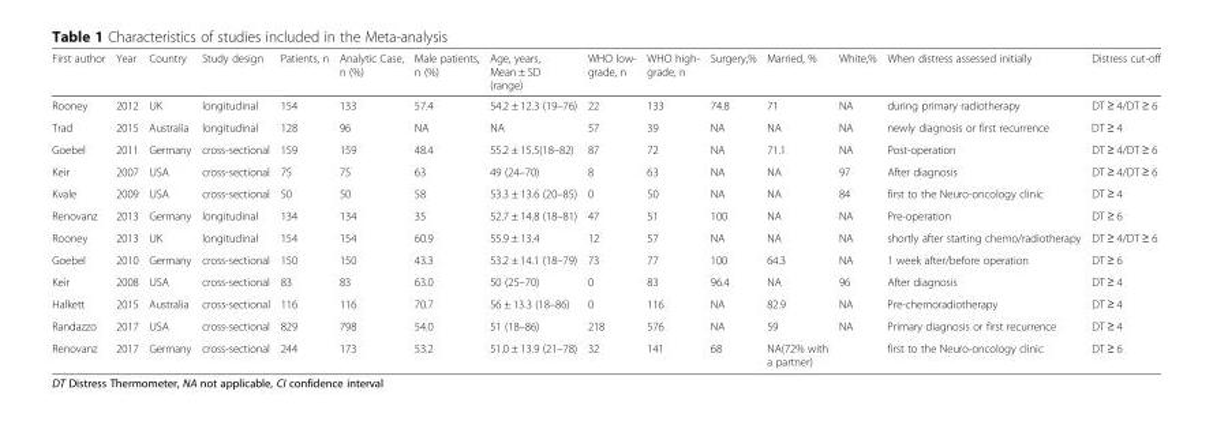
<table><thead><tr><td>First author</td><td>Year</td><td>Country</td><td>Study design</td><td>Patients, n</td><td>Analytic Case, n (%)</td><td>Male patients, n (%)</td><td>Age, years, Mean ± SD (range)</td><td>WHO low- grade, n</td><td>WHO high- grade, n</td><td>Surgery,%</td><td>Married, %</td><td>White,%</td><td>When distress assessed initially</td><td>Distress cut-off</td></tr></thead><tbody><tr><td>Rooney</td><td>2012</td><td>UK</td><td>longitudinal</td><td>154</td><td>133</td><td>57.4</td><td>54.2 ± 12.3 (19–76)</td><td>22</td><td>133</td><td>74.8</td><td>71</td><td>NA</td><td>during primary radiotherapy</td><td>DT ≥ 4/DT ≥ 6</td></tr><tr><td>Trad</td><td>2015</td><td>Australia</td><td>longitudinal</td><td>128</td><td>96</td><td>NA</td><td>NA</td><td>57</td><td>39</td><td>NA</td><td>NA</td><td>NA</td><td>newly diagnosis or first recurrence</td><td>DT ≥ 4</td></tr><tr><td>Goebel</td><td>2011</td><td>Germany</td><td>cross-sectional</td><td>159</td><td>159</td><td>48.4</td><td>55.2 ± 15.5(18–82)</td><td>87</td><td>72</td><td>NA</td><td>71.1</td><td>NA</td><td>Post-operation</td><td>DT ≥ 4/DT ≥ 6</td></tr><tr><td>Keir</td><td>2007</td><td>USA</td><td>cross-sectional</td><td>75</td><td>75</td><td>63</td><td>49 (24–70)</td><td>8</td><td>63</td><td>NA</td><td>NA</td><td>97</td><td>After diagnosis</td><td>DT ≥ 4/DT ≥ 6</td></tr><tr><td>Kvale</td><td>2009</td><td>USA</td><td>cross-sectional</td><td>50</td><td>50</td><td>58</td><td>53.3 ± 13.6 (20–85)</td><td>0</td><td>50</td><td>NA</td><td>NA</td><td>84</td><td>first to the Neuro-oncology clinic</td><td>DT ≥ 4</td></tr><tr><td>Renovanz</td><td>2013</td><td>Germany</td><td>longitudinal</td><td>134</td><td>134</td><td>35</td><td>52.7 ± 14.8 (18–81)</td><td>47</td><td>51</td><td>100</td><td>NA</td><td>NA</td><td>Pre-operation</td><td>DT ≥ 6</td></tr><tr><td>Rooney</td><td>2013</td><td>UK</td><td>longitudinal</td><td>154</td><td>154</td><td>60.9</td><td>55.9 ± 13.4</td><td>12</td><td>57</td><td>NA</td><td>NA</td><td>NA</td><td>shortly after starting chemo/radiotherapy</td><td>DT ≥ 4/DT ≥ 6</td></tr><tr><td>Goebel</td><td>2010</td><td>Germany</td><td>cross-sectional</td><td>150</td><td>150</td><td>43.3</td><td>53.2 ± 14.1 (18–79)</td><td>73</td><td>77</td><td>100</td><td>64.3</td><td>NA</td><td>1 week after/before operation</td><td>DT ≥ 6</td></tr><tr><td>Keir</td><td>2008</td><td>USA</td><td>cross-sectional</td><td>83</td><td>83</td><td>63.0</td><td>50 (25–70)</td><td>0</td><td>83</td><td>96.4</td><td>NA</td><td>96</td><td>After diagnosis</td><td>DT ≥ 4</td></tr><tr><td>Halkett</td><td>2015</td><td>Australia</td><td>cross-sectional</td><td>116</td><td>116</td><td>70.7</td><td>56 ± 13.3 (18–86)</td><td>0</td><td>116</td><td>NA</td><td>82.9</td><td>NA</td><td>Pre-chemoradiotherapy</td><td>DT ≥ 4</td></tr><tr><td>Randazzo</td><td>2017</td><td>USA</td><td>cross-sectional</td><td>829</td><td>798</td><td>54.0</td><td>51 (18–86)</td><td>218</td><td>576</td><td>NA</td><td>59</td><td>NA</td><td>Primary diagnosis or first recurrence</td><td>DT ≥ 4</td></tr><tr><td>Renovanz</td><td>2017</td><td>Germany</td><td>cross-sectional</td><td>244</td><td>173</td><td>53.2</td><td>51.0 ± 13.9 (21–78)</td><td>32</td><td>141</td><td>68</td><td>NA(72% with a partner)</td><td></td><td>first to the Neuro-oncology clinic</td><td>DT ≥ 6</td></tr></tbody></table>